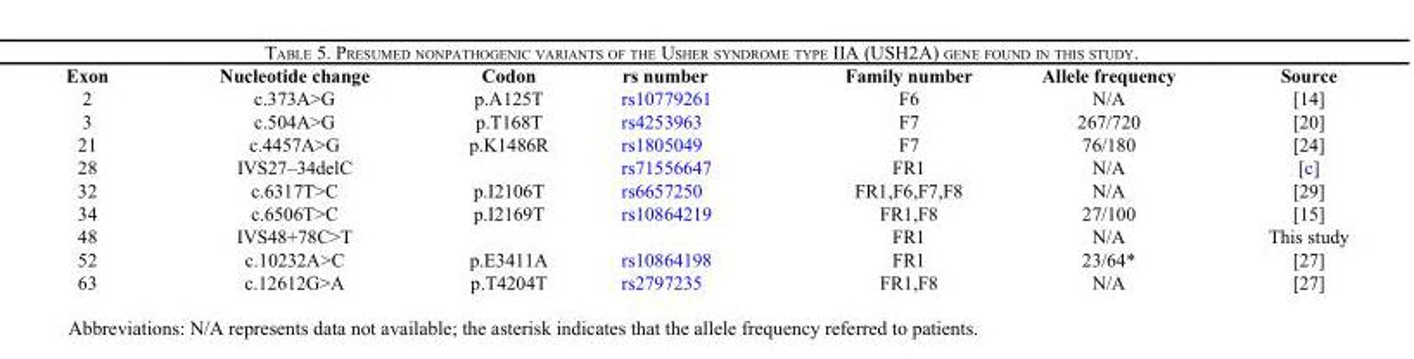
<table><thead><tr><td>Exon</td><td>Nucleotide change</td><td>Codon</td><td>rs number</td><td>Family number</td><td>Allele frequency</td><td>Source</td></tr></thead><tbody><tr><td>2</td><td>c.373A&gt;G</td><td>p.A125T</td><td>rs10779261</td><td>F6</td><td>N/A</td><td>[14]</td></tr><tr><td>3</td><td>c.504A&gt;G</td><td>p.T168T</td><td>rs4253963</td><td>F7</td><td>267/720</td><td>[20]</td></tr><tr><td>21</td><td>c.4457A&gt;G</td><td>p.K1486R</td><td>rs1805049</td><td>F7</td><td>76/180</td><td>[24]</td></tr><tr><td>28</td><td>IVS27–34delC</td><td></td><td>rs71556647</td><td>FR1</td><td>N/A</td><td>[c]</td></tr><tr><td>32</td><td>c.6317T&gt;C</td><td>p.I2106T</td><td>rs6657250</td><td>FR1,F6,F7,F8</td><td>N/A</td><td>[29]</td></tr><tr><td>34</td><td>c.6506T&gt;C</td><td>p.I2169T</td><td>rs10864219</td><td>FR1,F8</td><td>27/100</td><td>[15]</td></tr><tr><td>48</td><td>IVS48+78C&gt;T</td><td></td><td></td><td>FR1</td><td>N/A</td><td>This study</td></tr><tr><td>52</td><td>c.10232A&gt;C</td><td>p.E3411A</td><td>rs10864198</td><td>FR1</td><td>23/64*</td><td>[27]</td></tr><tr><td>63</td><td>c.12612G&gt;A</td><td>p.T4204T</td><td>rs2797235</td><td>FR1,F8</td><td>N/A</td><td>[27]</td></tr></tbody></table>